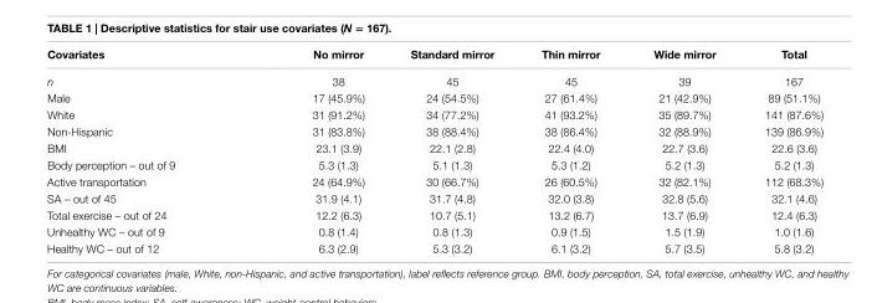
<table><thead><tr><td>covariates</td><td>no mirror</td><td>standard mirror</td><td>Thin mirror</td><td>Wide mirror</td><td>Total</td></tr></thead><tbody><tr><td>n</td><td>38</td><td>45</td><td>45</td><td>39</td><td>167</td></tr><tr><td>Male</td><td>17 (45.9%)</td><td>24 (54.5%)</td><td>27 (61.4%)</td><td>21 (42.9%)</td><td>89 (51.1%)</td></tr><tr><td>White</td><td>31 (91.2%)</td><td>34 (77.2%)</td><td>41 (93.2%)</td><td>35 (89.7%)</td><td>141 (87.6%)</td></tr><tr><td>Non-Hispanic</td><td>31 (83.8%)</td><td>38 (88.4%)</td><td>38 (86.4%)</td><td>32 (88.9%)</td><td>139 (86.9%)</td></tr><tr><td>BMI</td><td>23.1 (3.9)</td><td>22.1 (2.8)</td><td>22.4 (4.0)</td><td>22.7 (3.6)</td><td>22.6 (3.6)</td></tr><tr><td>Body perception – out of 9</td><td>5.3 (1.3)</td><td>5.1 (1.3)</td><td>5.3 (1.2)</td><td>5.2 (1.3)</td><td>5.2 (1.3)</td></tr><tr><td>Active transportation</td><td>24 (64.9%)</td><td>30 (66.7%)</td><td>26 (60.5%)</td><td>32 (82.1%)</td><td>112 (68.3%)</td></tr><tr><td>SA – out of 45</td><td>31.9 (4.1)</td><td>31.7 (4.8)</td><td>32.0 (3.8)</td><td>32.8 (5.6)</td><td>32.1 (4.6)</td></tr><tr><td>Total exercise – out of 24</td><td>12.2 (6.3)</td><td>10.7 (5.1)</td><td>13.2 (6.7)</td><td>13.7 (6.9)</td><td>12.4 (6.3)</td></tr><tr><td>Unhealthy WC – out of 9</td><td>0.8 (1.4)</td><td>0.8 (1.3)</td><td>0.9 (1.5)</td><td>1.5 (1.9)</td><td>1.0 (1.6)</td></tr><tr><td>Healthy WC – out of 12</td><td>6.3 (2.9)</td><td>5.3 (3.2)</td><td>6.1 (3.2)</td><td>5.7 (3.5)</td><td>5.8 (3.2)</td></tr></tbody></table>